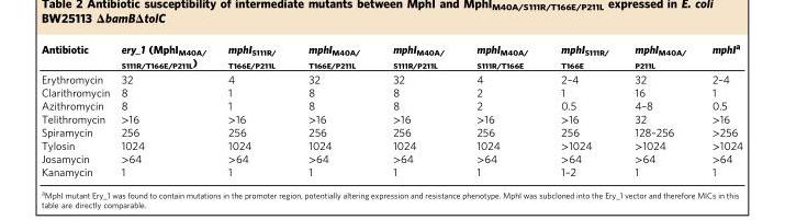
<table><thead><tr><td>Antibiotic</td><td>ery_1 (MphI<sub>M40A/ S111R/T166E/P211L</sub>)</td><td>mphI<sub>S111R/ T166E/P211L</sub></td><td>mphI<sub>M40A/ T166E/P211L</sub></td><td>mphI<sub>M40A/ S111R/P211L</sub></td><td>mphI<sub>M40A/ S111R/T166E</sub></td><td>mphI<sub>S111R/ T166E</sub></td><td>mphI<sub>M40A/ P211L</sub></td><td>mphI<sup>a</sup></td></tr></thead><tbody><tr><td>Erythromycin</td><td>32</td><td>4</td><td>32</td><td>32</td><td>4</td><td>2–4</td><td>32</td><td>2–4</td></tr><tr><td>Clarithromycin</td><td>8</td><td>1</td><td>8</td><td>8</td><td>2</td><td>1</td><td>16</td><td>1</td></tr><tr><td>Azithromycin</td><td>8</td><td>1</td><td>8</td><td>8</td><td>2</td><td>0.5</td><td>4–8</td><td>0.5</td></tr><tr><td>Telithromycin</td><td>&gt;16</td><td>&gt;16</td><td>&gt;16</td><td>&gt;16</td><td>&gt;16</td><td>&gt;16</td><td>32</td><td>&gt;16</td></tr><tr><td>Spiramycin</td><td>256</td><td>256</td><td>256</td><td>256</td><td>256</td><td>256</td><td>128–256</td><td>&gt;256</td></tr><tr><td>Tylosin</td><td>1024</td><td>1024</td><td>1024</td><td>1024</td><td>1024</td><td>&gt;1024</td><td>&gt;1024</td><td>&gt;1024</td></tr><tr><td>Josamycin</td><td>&gt;64</td><td>&gt;64</td><td>&gt;64</td><td>&gt;64</td><td>&gt;64</td><td>&gt;64</td><td>&gt;64</td><td>&gt;64</td></tr><tr><td>Kanamycin</td><td>1</td><td>1</td><td>1</td><td>1</td><td>1</td><td>1–2</td><td>1</td><td>1</td></tr></tbody></table>